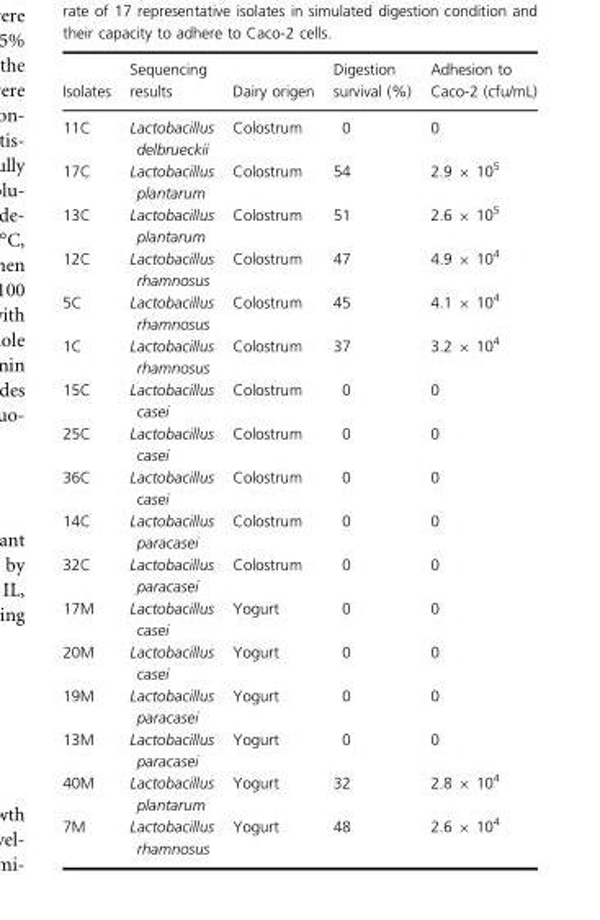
<table><thead><tr><td>Isolates</td><td>Sequencing results</td><td>Dairy origen</td><td>Digestion survival (%)</td><td>Adhesion to Caco-2 (cfu/mL)</td></tr></thead><tbody><tr><td>11C</td><td>Lactobacillus delbrueckii</td><td>Colostrum</td><td>0</td><td>0</td></tr><tr><td>17C</td><td>Lactobacillus plantarum</td><td>Colostrum</td><td>54</td><td>2.9 × 10<sup>5</sup></td></tr><tr><td>13C</td><td>Lactobacillus plantarum</td><td>Colostrum</td><td>51</td><td>2.6 × 10<sup>5</sup></td></tr><tr><td>12C</td><td>Lactobacillus rhamnosus</td><td>Colostrum</td><td>47</td><td>4.9 × 10<sup>4</sup></td></tr><tr><td>5C</td><td>Lactobacillus rhamnosus</td><td>Colostrum</td><td>45</td><td>4.1 × 10<sup>4</sup></td></tr><tr><td>1C</td><td>Lactobacillus rhamnosus</td><td>Colostrum</td><td>37</td><td>3.2 × 10<sup>4</sup></td></tr><tr><td>15C</td><td>Lactobacillus casei</td><td>Colostrum</td><td>0</td><td>0</td></tr><tr><td>25C</td><td>Lactobacillus casei</td><td>Colostrum</td><td>0</td><td>0</td></tr><tr><td>36C</td><td>Lactobacillus casei</td><td>Colostrum</td><td>0</td><td>0</td></tr><tr><td>14C</td><td>Lactobacillus paracasei</td><td>Colostrum</td><td>0</td><td>0</td></tr><tr><td>32C</td><td>Lactobacillus paracasei</td><td>Colostrum</td><td>0</td><td>0</td></tr><tr><td>17M</td><td>Lactobacillus casei</td><td>Yogurt</td><td>0</td><td>0</td></tr><tr><td>20M</td><td>Lactobacillus casei</td><td>Yogurt</td><td>0</td><td>0</td></tr><tr><td>19M</td><td>Lactobacillus paracasei</td><td>Yogurt</td><td>0</td><td>0</td></tr><tr><td>13M</td><td>Lactobacillus paracasei</td><td>Yogurt</td><td>0</td><td>0</td></tr><tr><td>40M</td><td>Lactobacillus plantarum</td><td>Yogurt</td><td>32</td><td>2.8 × 10<sup>4</sup></td></tr><tr><td>7M</td><td>Lactobacillus rhamnosus</td><td>Yogurt</td><td>48</td><td>2.6 × 10<sup>4</sup></td></tr></tbody></table>